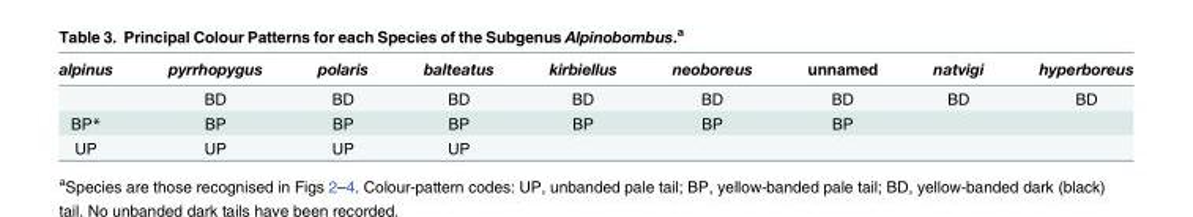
<table><thead><tr><td>alpinus</td><td>pyrrhopygus</td><td>polaris</td><td>balteatus</td><td>kirbiellus</td><td>neoboreus</td><td>unnamed</td><td>natvigi</td><td>hyperboreus</td></tr></thead><tbody><tr><td></td><td>BD</td><td>BD</td><td>BD</td><td>BD</td><td>BD</td><td>BD</td><td>BD</td><td>BD</td></tr><tr><td>BP*</td><td>BP</td><td>BP</td><td>BP</td><td>BP</td><td>BP</td><td>BP</td><td></td><td></td></tr><tr><td>UP</td><td>UP</td><td>UP</td><td>UP</td><td></td><td></td><td></td><td></td><td></td></tr></tbody></table>